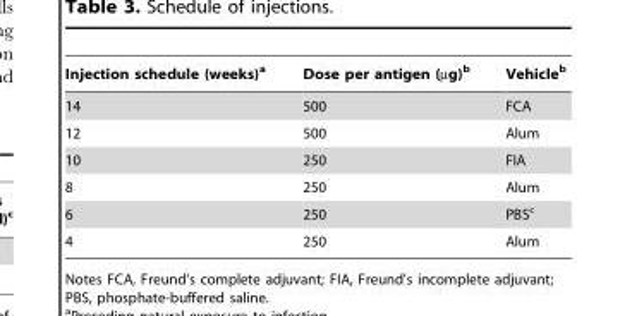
<table><thead><tr><td>Injection schedule (weeks)<sup>a</sup></td><td>Dose per antigen (µg)<sup>b</sup></td><td>Vehicle<sup>b</sup></td></tr></thead><tbody><tr><td>14</td><td>500</td><td>FCA</td></tr><tr><td>12</td><td>500</td><td>Alum</td></tr><tr><td>10</td><td>250</td><td>FIA</td></tr><tr><td>8</td><td>250</td><td>Alum</td></tr><tr><td>6</td><td>250</td><td>PBS<sup>c</sup></td></tr><tr><td>4</td><td>250</td><td>Alum</td></tr></tbody></table>